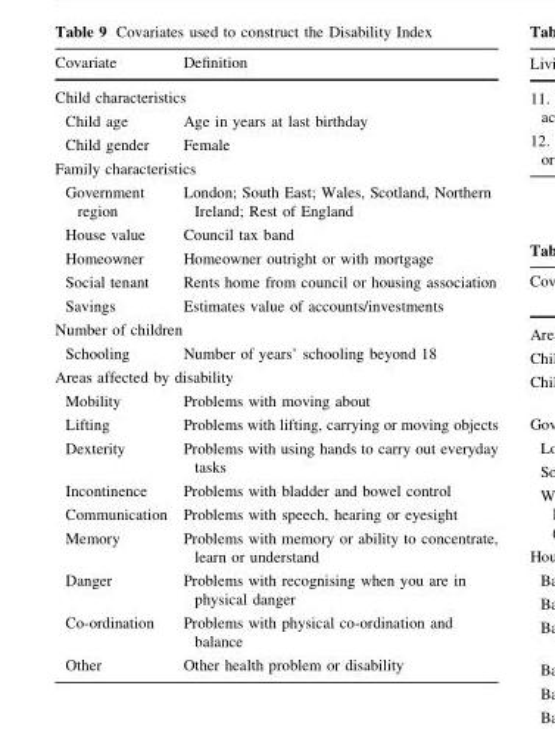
<table><thead><tr><td>Covariate</td><td>Definition</td></tr></thead><tbody><tr><td colspan="2">Child characteristics</td></tr><tr><td>Child age</td><td>Age in years at last birthday</td></tr><tr><td>Child gender</td><td>Female</td></tr><tr><td colspan="2">Family characteristics</td></tr><tr><td>Government region</td><td>London; South East; Wales, Scotland, Northern Ireland; Rest of England</td></tr><tr><td>House value</td><td>Council tax band</td></tr><tr><td>Homeowner</td><td>Homeowner outright or with mortgage</td></tr><tr><td>Social tenant</td><td>Rents home from council or housing association</td></tr><tr><td>Savings</td><td>Estimates value of accounts/investments</td></tr><tr><td colspan="2">Number of children</td></tr><tr><td>Schooling</td><td>Number of years’ schooling beyond 18</td></tr><tr><td colspan="2">Areas affected by disability</td></tr><tr><td>Mobility</td><td>Problems with moving about</td></tr><tr><td>Lifting</td><td>Problems with lifting, carrying or moving objects</td></tr><tr><td>Dexterity</td><td>Problems with using hands to carry out everyday tasks</td></tr><tr><td>Incontinence</td><td>Problems with bladder and bowel control</td></tr><tr><td>Communication</td><td>Problems with speech, hearing or eyesight</td></tr><tr><td>Memory</td><td>Problems with memory or ability to concentrate, learn or understand</td></tr><tr><td>Danger</td><td>Problems with recognising when you are in physical danger</td></tr><tr><td>Co-ordination</td><td>Problems with physical co-ordination and balance</td></tr><tr><td>Other</td><td>Other health problem or disability</td></tr></tbody></table>